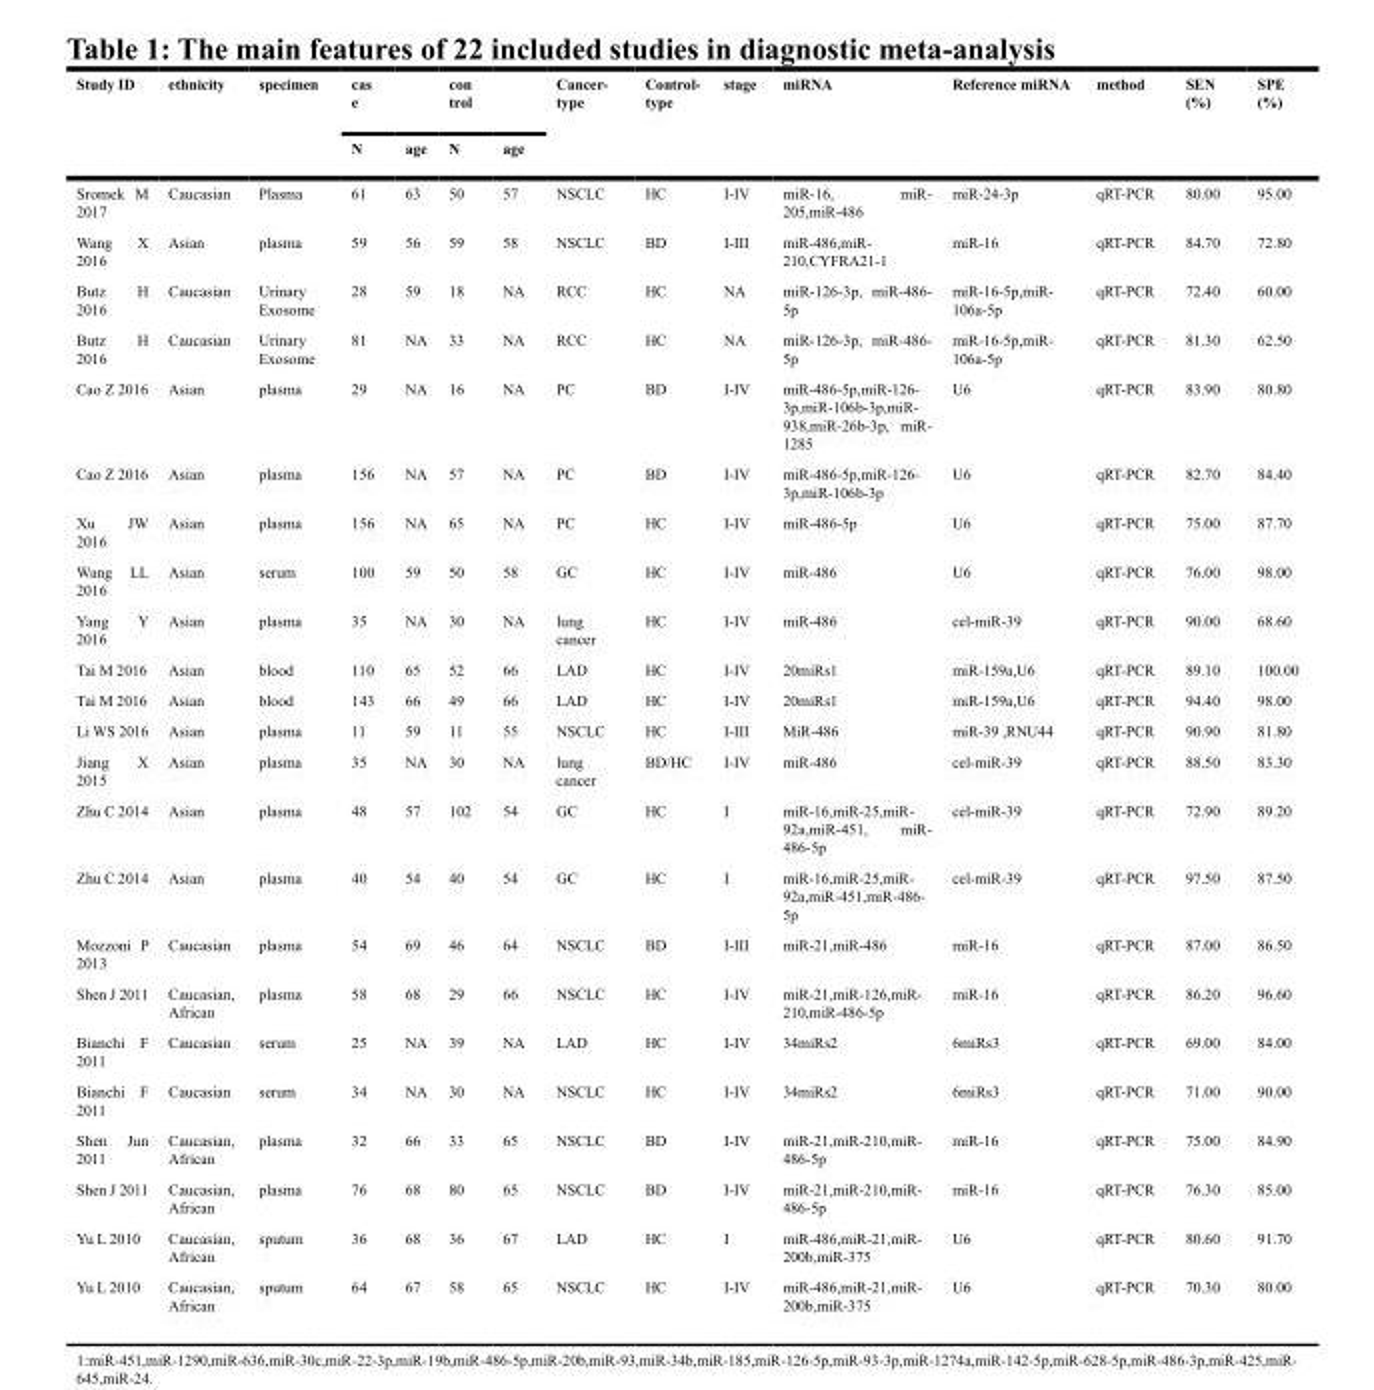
<table><thead><tr><td rowspan="2">Study ID</td><td rowspan="2">ethnicity</td><td rowspan="2">specimen</td><td rowspan="2">cas e N</td><td rowspan="2">age</td><td rowspan="2">con trol N</td><td rowspan="2">age</td><td rowspan="2">Cancer- type</td><td rowspan="2">Control- type</td><td rowspan="2">stage</td><td rowspan="2">miRNA</td><td rowspan="2">Reference miRNA</td><td rowspan="2">method</td><td rowspan="2">SEN (%)</td><td rowspan="2">SPE (%)</td></tr><tr></tr></thead><tbody><tr><td>Sromek M 2017</td><td>Caucasian</td><td>Plasma</td><td>61</td><td>63</td><td>50</td><td>57</td><td>NSCLC</td><td>HC</td><td>I-IV</td><td>miR-16, miR- 205,miR-486</td><td>miR-24-3p</td><td>qRT-PCR</td><td>80.00</td><td>95.00</td></tr><tr><td>Wang X 2016</td><td>Asian</td><td>plasma</td><td>59</td><td>56</td><td>59</td><td>58</td><td>NSCLC</td><td>BD</td><td>I-III</td><td>miR-486,miR- 210,CYFRA21-1</td><td>miR-16</td><td>qRT-PCR</td><td>84.70</td><td>72.80</td></tr><tr><td>Butz H 2016</td><td>Caucasian</td><td>Urinary Exosome</td><td>28</td><td>59</td><td>18</td><td>NA</td><td>RCC</td><td>HC</td><td>NA</td><td>miR-126-3p, miR-486- 5p</td><td>miR-16-5p,miR- 106a-5p</td><td>qRT-PCR</td><td>72.40</td><td>60.00</td></tr><tr><td>Butz H 2016</td><td>Caucasian</td><td>Urinary Exosome</td><td>81</td><td>NA</td><td>33</td><td>NA</td><td>RCC</td><td>HC</td><td>NA</td><td>miR-126-3p, miR-486- 5p</td><td>miR-16-5p,miR- 106a-5p</td><td>qRT-PCR</td><td>81.30</td><td>62.50</td></tr><tr><td>Cao Z 2016</td><td>Asian</td><td>plasma</td><td>29</td><td>NA</td><td>16</td><td>NA</td><td>PC</td><td>BD</td><td>I-IV</td><td>miR-486-5p,miR-126- 3p,miR-106b-3p,miR- 938,miR-26b-3p, miR- 1285</td><td>U6</td><td>qRT-PCR</td><td>83.90</td><td>80.80</td></tr><tr><td>Cao Z 2016</td><td>Asian</td><td>plasma</td><td>156</td><td>NA</td><td>57</td><td>NA</td><td>PC</td><td>BD</td><td>I-IV</td><td>miR-486-5p,miR-126- 3p,miR-106b-3p</td><td>U6</td><td>qRT-PCR</td><td>82.70</td><td>84.40</td></tr><tr><td>Xu JW 2016</td><td>Asian</td><td>plasma</td><td>156</td><td>NA</td><td>65</td><td>NA</td><td>PC</td><td>HC</td><td>I-IV</td><td>miR-486-5p</td><td>U6</td><td>qRT-PCR</td><td>75.00</td><td>87.70</td></tr><tr><td>Wang LL 2016</td><td>Asian</td><td>serum</td><td>100</td><td>59</td><td>50</td><td>58</td><td>GC</td><td>HC</td><td>I-IV</td><td>miR-486</td><td>U6</td><td>qRT-PCR</td><td>76.00</td><td>98.00</td></tr><tr><td>Yang Y 2016</td><td>Asian</td><td>plasma</td><td>35</td><td>NA</td><td>30</td><td>NA</td><td>lung cancer</td><td>HC</td><td>I-IV</td><td>miR-486</td><td>cel-miR-39</td><td>qRT-PCR</td><td>90.00</td><td>68.60</td></tr><tr><td>Tai M 2016</td><td>Asian</td><td>blood</td><td>110</td><td>65</td><td>52</td><td>66</td><td>LAD</td><td>HC</td><td>I-IV</td><td>20miRs1</td><td>miR-159a,U6</td><td>qRT-PCR</td><td>89.10</td><td>100.00</td></tr><tr><td>Tai M 2016</td><td>Asian</td><td>blood</td><td>143</td><td>66</td><td>49</td><td>66</td><td>LAD</td><td>HC</td><td>I-IV</td><td>20miRs1</td><td>miR-159a,U6</td><td>qRT-PCR</td><td>94.40</td><td>98.00</td></tr><tr><td>Li WS 2016</td><td>Asian</td><td>plasma</td><td>11</td><td>59</td><td>11</td><td>55</td><td>NSCLC</td><td>HC</td><td>I-III</td><td>MiR-486</td><td>miR-39 ,RNU44</td><td>qRT-PCR</td><td>90.90</td><td>81.80</td></tr><tr><td>Jiang X 2015</td><td>Asian</td><td>plasma</td><td>35</td><td>NA</td><td>30</td><td>NA</td><td>lung cancer</td><td>BD/HC</td><td>I-IV</td><td>miR-486</td><td>cel-miR-39</td><td>qRT-PCR</td><td>88.50</td><td>83.30</td></tr><tr><td>Zhu C 2014</td><td>Asian</td><td>plasma</td><td>48</td><td>57</td><td>102</td><td>54</td><td>GC</td><td>HC</td><td>I</td><td>miR-16,miR-25,miR- 92a,miR-451, miR- 486-5p</td><td>cel-miR-39</td><td>qRT-PCR</td><td>72.90</td><td>89.20</td></tr><tr><td>Zhu C 2014</td><td>Asian</td><td>plasma</td><td>40</td><td>54</td><td>40</td><td>54</td><td>GC</td><td>HC</td><td>I</td><td>miR-16,miR-25,miR- 92a,miR-451,miR-486- 5p</td><td>cel-miR-39</td><td>qRT-PCR</td><td>97.50</td><td>87.50</td></tr><tr><td>Mozzoni P 2013</td><td>Caucasian</td><td>plasma</td><td>54</td><td>69</td><td>46</td><td>64</td><td>NSCLC</td><td>BD</td><td>I-III</td><td>miR-21,miR-486</td><td>miR-16</td><td>qRT-PCR</td><td>87.00</td><td>86.50</td></tr><tr><td>Shen J 2011</td><td>Caucasian, African</td><td>plasma</td><td>58</td><td>68</td><td>29</td><td>66</td><td>NSCLC</td><td>HC</td><td>I-IV</td><td>miR-21,miR-126,miR- 210,miR-486-5p</td><td>miR-16</td><td>qRT-PCR</td><td>86.20</td><td>96.60</td></tr><tr><td>Bianchi F 2011</td><td>Caucasian</td><td>serum</td><td>25</td><td>NA</td><td>39</td><td>NA</td><td>LAD</td><td>HC</td><td>I-IV</td><td>34miRs2</td><td>6miRs3</td><td>qRT-PCR</td><td>69.00</td><td>84.00</td></tr><tr><td>Bianchi F 2011</td><td>Caucasian</td><td>serum</td><td>34</td><td>NA</td><td>30</td><td>NA</td><td>NSCLC</td><td>HC</td><td>I-IV</td><td>34miRs2</td><td>6miRs3</td><td>qRT-PCR</td><td>71.00</td><td>90.00</td></tr><tr><td>Shen Jun 2011</td><td>Caucasian, African</td><td>plasma</td><td>32</td><td>66</td><td>33</td><td>65</td><td>NSCLC</td><td>BD</td><td>I-IV</td><td>miR-21,miR-210,miR- 486-5p</td><td>miR-16</td><td>qRT-PCR</td><td>75.00</td><td>84.90</td></tr><tr><td>Shen J 2011</td><td>Caucasian, African</td><td>plasma</td><td>76</td><td>68</td><td>80</td><td>65</td><td>NSCLC</td><td>BD</td><td>I-IV</td><td>miR-21,miR-210,miR- 486-5p</td><td>miR-16</td><td>qRT-PCR</td><td>76.30</td><td>85.00</td></tr><tr><td>Yu L 2010</td><td>Caucasian, African</td><td>sputum</td><td>36</td><td>68</td><td>36</td><td>67</td><td>LAD</td><td>HC</td><td>I</td><td>miR-486,miR-21,miR- 200b,miR-375</td><td>U6</td><td>qRT-PCR</td><td>80.60</td><td>91.70</td></tr><tr><td>Yu L 2010</td><td>Caucasian, African</td><td>sputum</td><td>64</td><td>67</td><td>58</td><td>65</td><td>NSCLC</td><td>HC</td><td>I-IV</td><td>miR-486,miR-21,miR- 200b,miR-375</td><td>U6</td><td>qRT-PCR</td><td>70.30</td><td>80.00</td></tr></tbody></table>